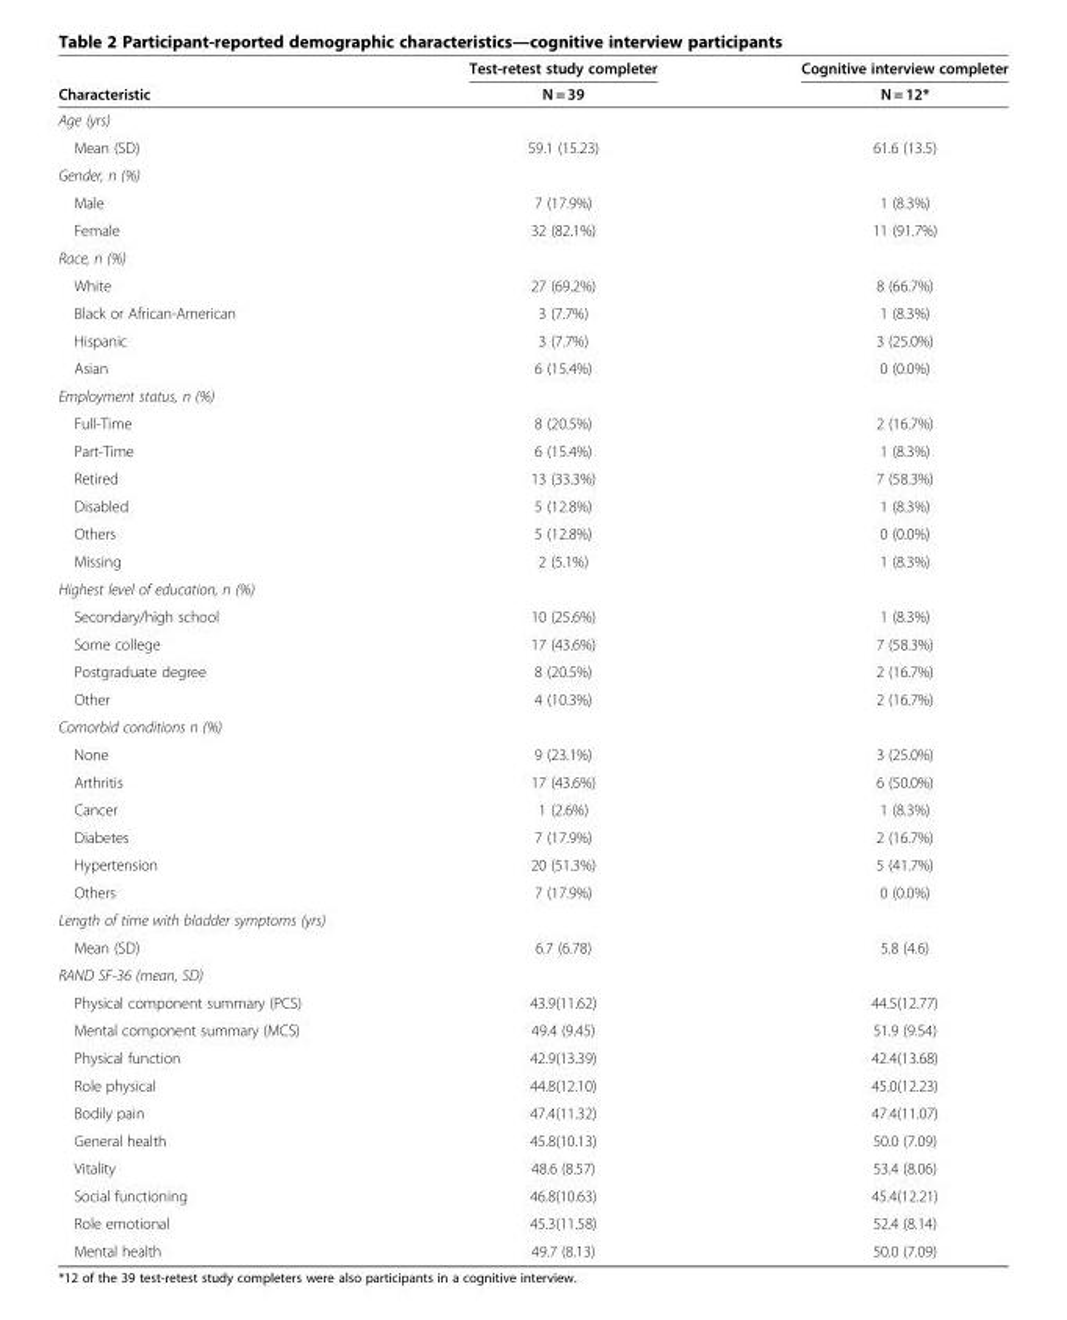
<table><thead><tr><td rowspan="2">Characteristic</td><td rowspan="2">Test-retest study completer N = 39</td><td rowspan="2">Cognitive interview completer N = 12*</td></tr><tr></tr></thead><tbody><tr><td colspan="3">Age (yrs)</td></tr><tr><td>Mean (SD)</td><td>59.1 (15.23)</td><td>61.6 (13.5)</td></tr><tr><td colspan="3">Gender, n (%)</td></tr><tr><td>Male</td><td>7 (17.9%)</td><td>1 (8.3%)</td></tr><tr><td>Female</td><td>32 (82.1%)</td><td>11 (91.7%)</td></tr><tr><td colspan="3">Race, n (%)</td></tr><tr><td>White</td><td>27 (69.2%)</td><td>8 (66.7%)</td></tr><tr><td>Black or African-American</td><td>3 (7.7%)</td><td>1 (8.3%)</td></tr><tr><td>Hispanic</td><td>3 (7.7%)</td><td>3 (25.0%)</td></tr><tr><td>Asian</td><td>6 (15.4%)</td><td>0 (0.0%)</td></tr><tr><td colspan="3">Employment status, n (%)</td></tr><tr><td>Full-Time</td><td>8 (20.5%)</td><td>2 (16.7%)</td></tr><tr><td>Part-Time</td><td>6 (15.4%)</td><td>1 (8.3%)</td></tr><tr><td>Retired</td><td>13 (33.3%)</td><td>7 (58.3%)</td></tr><tr><td>Disabled</td><td>5 (12.8%)</td><td>1 (8.3%)</td></tr><tr><td>Others</td><td>5 (12.8%)</td><td>0 (0.0%)</td></tr><tr><td>Missing</td><td>2 (5.1%)</td><td>1 (8.3%)</td></tr><tr><td colspan="3">Highest level of education, n (%)</td></tr><tr><td>Secondary/high school</td><td>10 (25.6%)</td><td>1 (8.3%)</td></tr><tr><td>Some college</td><td>17 (43.6%)</td><td>7 (58.3%)</td></tr><tr><td>Postgraduate degree</td><td>8 (20.5%)</td><td>2 (16.7%)</td></tr><tr><td>Other</td><td>4 (10.3%)</td><td>2 (16.7%)</td></tr><tr><td colspan="3">Comorbid conditions n (%)</td></tr><tr><td>None</td><td>9 (23.1%)</td><td>3 (25.0%)</td></tr><tr><td>Arthritis</td><td>17 (43.6%)</td><td>6 (50.0%)</td></tr><tr><td>Cancer</td><td>1 (2.6%)</td><td>1 (8.3%)</td></tr><tr><td>Diabetes</td><td>7 (17.9%)</td><td>2 (16.7%)</td></tr><tr><td>Hypertension</td><td>20 (51.3%)</td><td>5 (41.7%)</td></tr><tr><td>Others</td><td>7 (17.9%)</td><td>0 (0.0%)</td></tr><tr><td colspan="3">Length of time with bladder symptoms (yrs)</td></tr><tr><td>Mean (SD)</td><td>6.7 (6.78)</td><td>5.8 (4.6)</td></tr><tr><td colspan="3">RAND SF-36 (mean, SD)</td></tr><tr><td>Physical component summary (PCS)</td><td>43.9(11.62)</td><td>44.5(12.77)</td></tr><tr><td>Mental component summary (MCS)</td><td>49.4 (9.45)</td><td>51.9 (9.54)</td></tr><tr><td>Physical function</td><td>42.9(13.39)</td><td>42.4(13.68)</td></tr><tr><td>Role physical</td><td>44.8(12.10)</td><td>45.0(12.23)</td></tr><tr><td>Bodily pain</td><td>47.4(11.32)</td><td>47.4(11.07)</td></tr><tr><td>General health</td><td>45.8(10.13)</td><td>50.0 (7.09)</td></tr><tr><td>Vitality</td><td>48.6 (8.57)</td><td>53.4 (8.06)</td></tr><tr><td>Social functioning</td><td>46.8(10.63)</td><td>45.4(12.21)</td></tr><tr><td>Role emotional</td><td>45.3(11.58)</td><td>52.4 (8.14)</td></tr><tr><td>Mental health</td><td>49.7 (8.13)</td><td>50.0 (7.09)</td></tr></tbody></table>